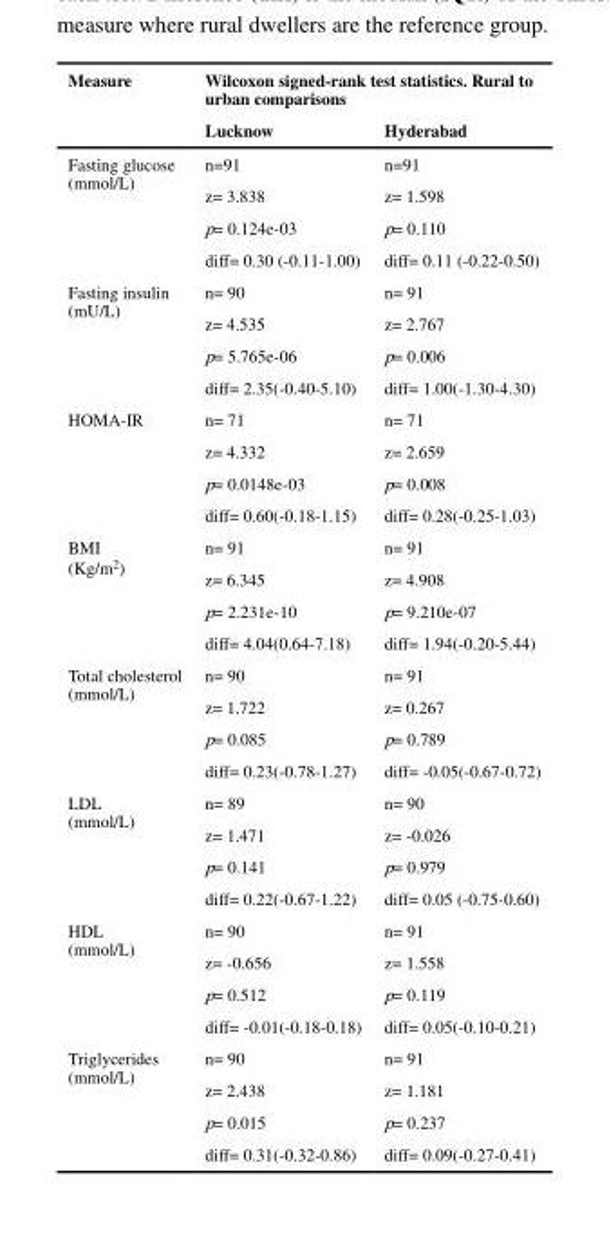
<table><thead><tr><td rowspan="2">Measure</td><td colspan="2">Wilcoxon signed-rank test statistics. Rural to urban comparisons</td></tr><tr><td>Lucknow</td><td>Hyderabad</td></tr></thead><tbody><tr><td rowspan="4">Fasting glucose (mmol/L)</td><td>n=91</td><td>n=91</td></tr><tr><td>z= 3.838</td><td>z= 1.598</td></tr><tr><td>p= 0.124e-03</td><td>p= 0.110</td></tr><tr><td>diff= 0.30 (-0.11-1.00)</td><td>diff= 0.11 (-0.22-0.50)</td></tr><tr><td rowspan="4">Fasting insulin (mU/L)</td><td>n= 90</td><td>n= 91</td></tr><tr><td>z= 4.535</td><td>z= 2.767</td></tr><tr><td>p= 5.765e-06</td><td>p= 0.006</td></tr><tr><td>diff= 2.35(-0.40-5.10)</td><td>diff= 1.00(-1.30-4.30)</td></tr><tr><td rowspan="4">HOMA-IR</td><td>n= 71</td><td>n= 71</td></tr><tr><td>z= 4.332</td><td>z= 2.659</td></tr><tr><td>p= 0.0148e-03</td><td>p= 0.008</td></tr><tr><td>diff= 0.60(-0.18-1.15)</td><td>diff= 0.28(-0.25-1.03)</td></tr><tr><td rowspan="4">BMI (Kg/m<sup>2</sup>)</td><td>n= 91</td><td>n= 91</td></tr><tr><td>z= 6.345</td><td>z= 4.908</td></tr><tr><td>p= 2.231e-10</td><td>p= 9.210e-07</td></tr><tr><td>diff= 4.04(0.64-7.18)</td><td>diff= 1.94(-0.20-5.44)</td></tr><tr><td rowspan="4">Total cholesterol (mmol/L)</td><td>n= 90</td><td>n= 91</td></tr><tr><td>z= 1.722</td><td>z= 0.267</td></tr><tr><td>p= 0.085</td><td>p= 0.789</td></tr><tr><td>diff= 0.23(-0.78-1.27)</td><td>diff= -0.05(-0.67-0.72)</td></tr><tr><td rowspan="4">LDL (mmol/L)</td><td>n= 89</td><td>n= 90</td></tr><tr><td>z= 1.471</td><td>z= -0.026</td></tr><tr><td>p= 0.141</td><td>p= 0.979</td></tr><tr><td>diff= 0.22(-0.67-1.22)</td><td>diff= 0.05 (-0.75-0.60)</td></tr><tr><td rowspan="4">HDL (mmol/L)</td><td>n= 90</td><td>n= 91</td></tr><tr><td>z= -0.656</td><td>z= 1.558</td></tr><tr><td>p= 0.512</td><td>p= 0.119</td></tr><tr><td>diff= -0.01(-0.18-0.18)</td><td>diff= 0.05(-0.10-0.21)</td></tr><tr><td rowspan="4">Triglycerides (mmol/L)</td><td>n= 90</td><td>n= 91</td></tr><tr><td>z= 2.438</td><td>z= 1.181</td></tr><tr><td>p= 0.015</td><td>p= 0.237</td></tr><tr><td>diff= 0.31(-0.32-0.86)</td><td>diff= 0.09(-0.27-0.41)</td></tr></tbody></table>